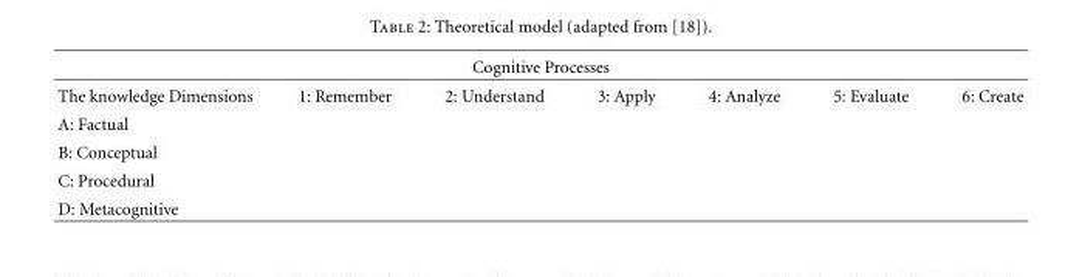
<table><thead><tr><td colspan="7">Cognitive Processes</td></tr><tr><td>The knowledge Dimensions</td><td>1: Remember</td><td>2: Understand</td><td>3: Apply</td><td>4: Analyze</td><td>5: Evaluate</td><td>6: Create</td></tr></thead><tbody><tr><td colspan="7">A: Factual</td></tr><tr><td colspan="7">B: Conceptual</td></tr><tr><td colspan="7">C: Procedural</td></tr><tr><td>D: Metacognitive</td><td></td><td></td><td></td><td></td><td></td><td></td></tr></tbody></table>